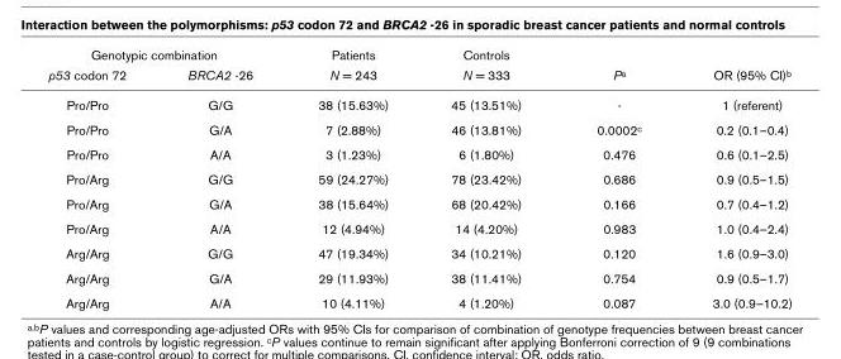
<table><thead><tr><td colspan="2">Genotypic combination</td><td rowspan="2">Patients N = 243</td><td rowspan="2">Controls N = 333</td><td rowspan="2">P<sup>a</sup></td><td rowspan="2">OR (95% CI)<sup>b</sup></td></tr><tr><td>p53 codon 72</td><td>BRCA2 -26</td></tr></thead><tbody><tr><td>Pro/Pro</td><td>G/G</td><td>38 (15.63%)</td><td>45 (13.51%)</td><td>-</td><td>1 (referent)</td></tr><tr><td>Pro/Pro</td><td>G/A</td><td>7 (2.88%)</td><td>46 (13.81%)</td><td>0.0002<sup>c</sup></td><td>0.2 (0.1–0.4)</td></tr><tr><td>Pro/Pro</td><td>A/A</td><td>3 (1.23%)</td><td>6 (1.80%)</td><td>0.476</td><td>0.6 (0.1–2.5)</td></tr><tr><td>Pro/Arg</td><td>G/G</td><td>59 (24.27%)</td><td>78 (23.42%)</td><td>0.686</td><td>0.9 (0.5–1.5)</td></tr><tr><td>Pro/Arg</td><td>G/A</td><td>38 (15.64%)</td><td>68 (20.42%)</td><td>0.166</td><td>0.7 (0.4–1.2)</td></tr><tr><td>Pro/Arg</td><td>A/A</td><td>12 (4.94%)</td><td>14 (4.20%)</td><td>0.983</td><td>1.0 (0.4–2.4)</td></tr><tr><td>Arg/Arg</td><td>G/G</td><td>47 (19.34%)</td><td>34 (10.21%)</td><td>0.120</td><td>1.6 (0.9–3.0)</td></tr><tr><td>Arg/Arg</td><td>G/A</td><td>29 (11.93%)</td><td>38 (11.41%)</td><td>0.754</td><td>0.9 (0.5–1.7)</td></tr><tr><td>Arg/Arg</td><td>A/A</td><td>10 (4.11%)</td><td>4 (1.20%)</td><td>0.087</td><td>3.0 (0.9–10.2)</td></tr></tbody></table>